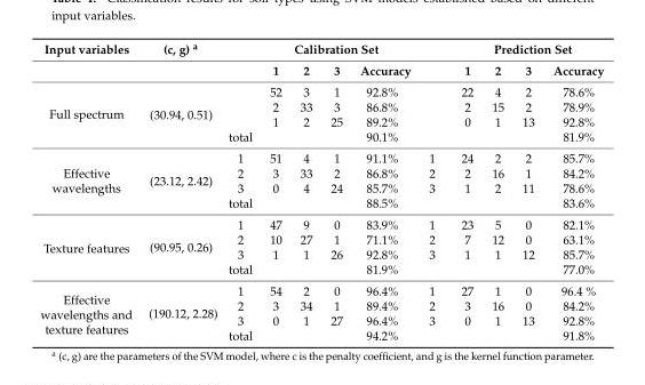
<table><thead><tr><td rowspan="2">Input variables</td><td rowspan="2">(c, g) <sup>a</sup></td><td rowspan="2"></td><td colspan="4">Calibration Set</td><td rowspan="2"></td><td colspan="4">Prediction Set</td></tr><tr><td>1</td><td>2</td><td>3</td><td>Accuracy</td><td>1</td><td>2</td><td>3</td><td>Accuracy</td></tr></thead><tbody><tr><td rowspan="4">Full spectrum</td><td rowspan="4">(30.94, 0.51)</td><td></td><td>52</td><td>3</td><td>1</td><td>92.8%</td><td></td><td>22</td><td>4</td><td>2</td><td>78.6%</td></tr><tr><td></td><td>2</td><td>33</td><td>3</td><td>86.8%</td><td></td><td>2</td><td>15</td><td>2</td><td>78.9%</td></tr><tr><td></td><td>1</td><td>2</td><td>25</td><td>89.2%</td><td></td><td>0</td><td>1</td><td>13</td><td>92.8%</td></tr><tr><td>total</td><td></td><td></td><td></td><td>90.1%</td><td></td><td></td><td></td><td></td><td>81.9%</td></tr><tr><td rowspan="4">Effective wavelengths</td><td rowspan="4">(23.12, 2.42)</td><td>1</td><td>51</td><td>4</td><td>1</td><td>91.1%</td><td>1</td><td>24</td><td>2</td><td>2</td><td>85.7%</td></tr><tr><td>2</td><td>3</td><td>33</td><td>2</td><td>86.8%</td><td>2</td><td>2</td><td>16</td><td>1</td><td>84.2%</td></tr><tr><td>3</td><td>0</td><td>4</td><td>24</td><td>85.7%</td><td>3</td><td>1</td><td>2</td><td>11</td><td>78.6%</td></tr><tr><td>total</td><td></td><td></td><td></td><td>88.5%</td><td></td><td></td><td></td><td></td><td>83.6%</td></tr><tr><td rowspan="4">Texture features</td><td rowspan="4">(90.95, 0.26)</td><td>1</td><td>47</td><td>9</td><td>0</td><td>83.9%</td><td>1</td><td>23</td><td>5</td><td>0</td><td>82.1%</td></tr><tr><td>2</td><td>10</td><td>27</td><td>1</td><td>71.1%</td><td>2</td><td>7</td><td>12</td><td>0</td><td>63.1%</td></tr><tr><td>3</td><td>1</td><td>1</td><td>26</td><td>92.8%</td><td>3</td><td>1</td><td>1</td><td>12</td><td>85.7%</td></tr><tr><td>total</td><td></td><td></td><td></td><td>81.9%</td><td></td><td></td><td></td><td></td><td>77.0%</td></tr><tr><td rowspan="4">Effective wavelengths and texture features</td><td rowspan="4">(190.12, 2.28)</td><td>1</td><td>54</td><td>2</td><td>0</td><td>96.4%</td><td>1</td><td>27</td><td>1</td><td>0</td><td>96.4 %</td></tr><tr><td>2</td><td>3</td><td>34</td><td>1</td><td>89.4%</td><td>2</td><td>3</td><td>16</td><td>0</td><td>84.2%</td></tr><tr><td>3</td><td>0</td><td>1</td><td>27</td><td>96.4%</td><td>3</td><td>0</td><td>1</td><td>13</td><td>92.8%</td></tr><tr><td>total</td><td></td><td></td><td></td><td>94.2%</td><td></td><td></td><td></td><td></td><td>91.8%</td></tr></tbody></table>